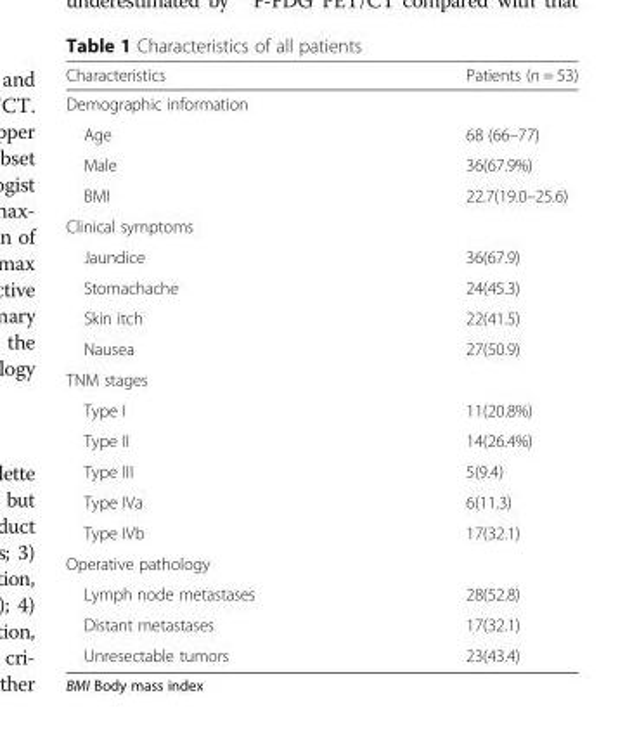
<table><thead><tr><td>Characteristics</td><td>Patients (n = 53)</td></tr></thead><tbody><tr><td colspan="2">Demographic information</td></tr><tr><td>Age</td><td>68 (66–77)</td></tr><tr><td>Male</td><td>36(67.9%)</td></tr><tr><td>BMI</td><td>22.7(19.0–25.6)</td></tr><tr><td colspan="2">Clinical symptoms</td></tr><tr><td>Jaundice</td><td>36(67.9)</td></tr><tr><td>Stomachache</td><td>24(45.3)</td></tr><tr><td>Skin itch</td><td>22(41.5)</td></tr><tr><td>Nausea</td><td>27(50.9)</td></tr><tr><td colspan="2">TNM stages</td></tr><tr><td>Type I</td><td>11(20.8%)</td></tr><tr><td>Type II</td><td>14(26.4%)</td></tr><tr><td>Type III</td><td>5(9.4)</td></tr><tr><td>Type IVa</td><td>6(11.3)</td></tr><tr><td>Type IVb</td><td>17(32.1)</td></tr><tr><td colspan="2">Operative pathology</td></tr><tr><td>Lymph node metastases</td><td>28(52.8)</td></tr><tr><td>Distant metastases</td><td>17(32.1)</td></tr><tr><td>Unresectable tumors</td><td>23(43.4)</td></tr></tbody></table>